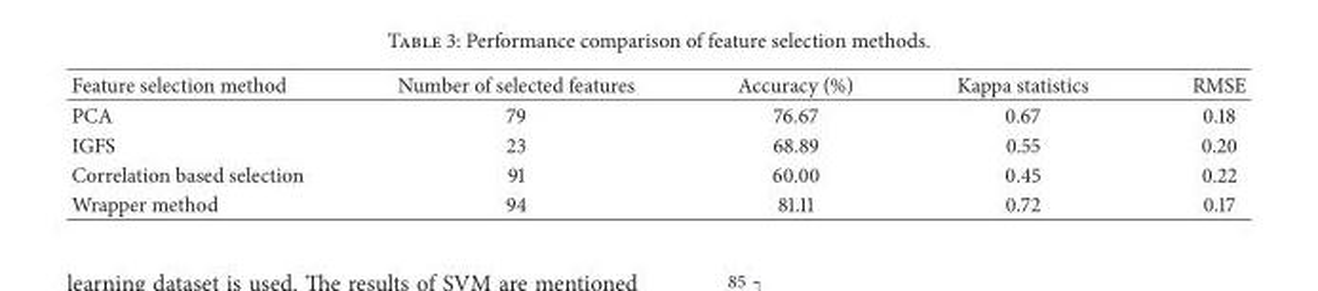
<table><thead><tr><td>Feature selection method</td><td>Number of selected features</td><td>Accuracy (%)</td><td>Kappa statistics</td><td>RMSE</td></tr></thead><tbody><tr><td>PCA</td><td>79</td><td>76.67</td><td>0.67</td><td>0.18</td></tr><tr><td>IGFS</td><td>23</td><td>68.89</td><td>0.55</td><td>0.20</td></tr><tr><td>Correlation based selection</td><td>91</td><td>60.00</td><td>0.45</td><td>0.22</td></tr><tr><td>Wrapper method</td><td>94</td><td>81.11</td><td>0.72</td><td>0.17</td></tr></tbody></table>